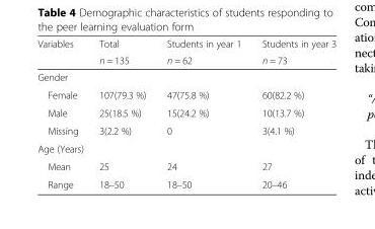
<table><thead><tr><td rowspan="2">Variables</td><td rowspan="2">Total n = 135</td><td rowspan="2">Students in year 1 n = 62</td><td rowspan="2">Students in year 3 n = 73</td></tr><tr></tr></thead><tbody><tr><td colspan="4">Gender</td></tr><tr><td>Female</td><td>107(79.3 %)</td><td>47(75.8 %)</td><td>60(82.2 %)</td></tr><tr><td>Male</td><td>25(18.5 %)</td><td>15(24.2 %)</td><td>10(13.7 %)</td></tr><tr><td>Missing</td><td>3(2.2 %)</td><td>0</td><td>3(4.1 %)</td></tr><tr><td colspan="4">Age (Years)</td></tr><tr><td>Mean</td><td>25</td><td>24</td><td>27</td></tr><tr><td>Range</td><td>18–50</td><td>18–50</td><td>20–46</td></tr></tbody></table>